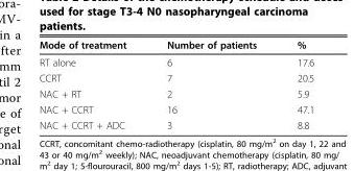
<table><tbody><tr><td>Mode of treatment</td><td>Number of patients</td><td>%</td></tr><tr><td>RT alone</td><td>6</td><td>17.6</td></tr><tr><td>CCRT</td><td>7</td><td>20.5</td></tr><tr><td>NAC + RT</td><td>2</td><td>5.9</td></tr><tr><td>NAC + CCRT</td><td>16</td><td>47.1</td></tr><tr><td>NAC + CCRT + ADC</td><td>3</td><td>8.8</td></tr></tbody></table>